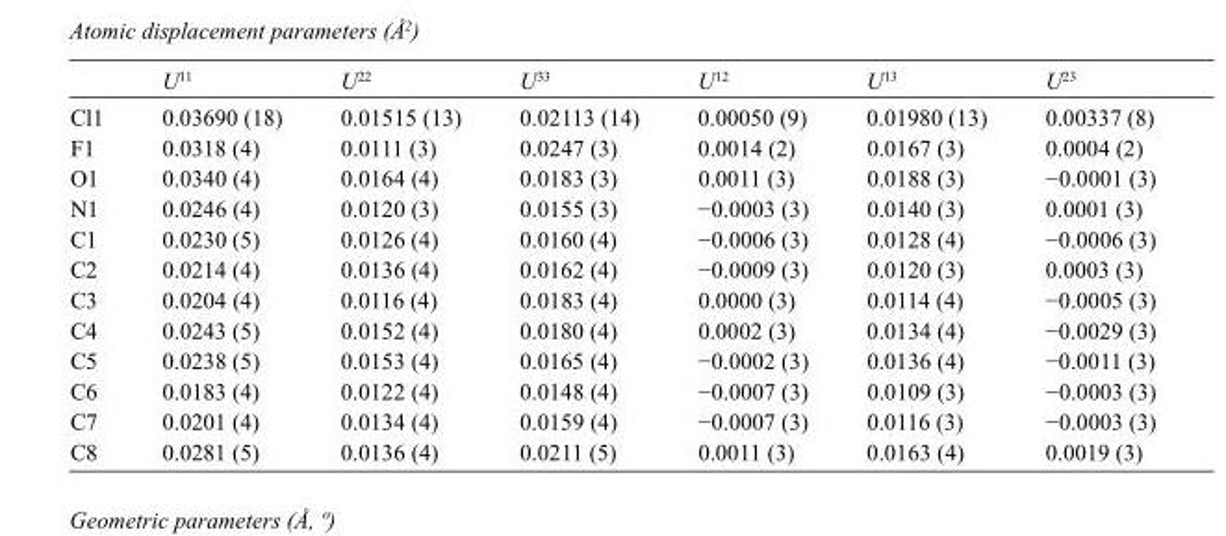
<table><thead><tr><td></td><td>U<sup>11</sup></td><td>U<sup>22</sup></td><td>U<sup>33</sup></td><td>U<sup>12</sup></td><td>U<sup>13</sup></td><td>U<sup>23</sup></td></tr></thead><tbody><tr><td>Cl1</td><td>0.03690 (18)</td><td>0.01515 (13)</td><td>0.02113 (14)</td><td>0.00050 (9)</td><td>0.01980 (13)</td><td>0.00337 (8)</td></tr><tr><td>F1</td><td>0.0318 (4)</td><td>0.0111 (3)</td><td>0.0247 (3)</td><td>0.0014 (2)</td><td>0.0167 (3)</td><td>0.0004 (2)</td></tr><tr><td>O1</td><td>0.0340 (4)</td><td>0.0164 (4)</td><td>0.0183 (3)</td><td>0.0011 (3)</td><td>0.0188 (3)</td><td>−0.0001 (3)</td></tr><tr><td>N1</td><td>0.0246 (4)</td><td>0.0120 (3)</td><td>0.0155 (3)</td><td>−0.0003 (3)</td><td>0.0140 (3)</td><td>0.0001 (3)</td></tr><tr><td>C1</td><td>0.0230 (5)</td><td>0.0126 (4)</td><td>0.0160 (4)</td><td>−0.0006 (3)</td><td>0.0128 (4)</td><td>−0.0006 (3)</td></tr><tr><td>C2</td><td>0.0214 (4)</td><td>0.0136 (4)</td><td>0.0162 (4)</td><td>−0.0009 (3)</td><td>0.0120 (3)</td><td>0.0003 (3)</td></tr><tr><td>C3</td><td>0.0204 (4)</td><td>0.0116 (4)</td><td>0.0183 (4)</td><td>0.0000 (3)</td><td>0.0114 (4)</td><td>−0.0005 (3)</td></tr><tr><td>C4</td><td>0.0243 (5)</td><td>0.0152 (4)</td><td>0.0180 (4)</td><td>0.0002 (3)</td><td>0.0134 (4)</td><td>−0.0029 (3)</td></tr><tr><td>C5</td><td>0.0238 (5)</td><td>0.0153 (4)</td><td>0.0165 (4)</td><td>−0.0002 (3)</td><td>0.0136 (4)</td><td>−0.0011 (3)</td></tr><tr><td>C6</td><td>0.0183 (4)</td><td>0.0122 (4)</td><td>0.0148 (4)</td><td>−0.0007 (3)</td><td>0.0109 (3)</td><td>−0.0003 (3)</td></tr><tr><td>C7</td><td>0.0201 (4)</td><td>0.0134 (4)</td><td>0.0159 (4)</td><td>−0.0007 (3)</td><td>0.0116 (3)</td><td>−0.0003 (3)</td></tr><tr><td>C8</td><td>0.0281 (5)</td><td>0.0136 (4)</td><td>0.0211 (5)</td><td>0.0011 (3)</td><td>0.0163 (4)</td><td>0.0019 (3)</td></tr></tbody></table>